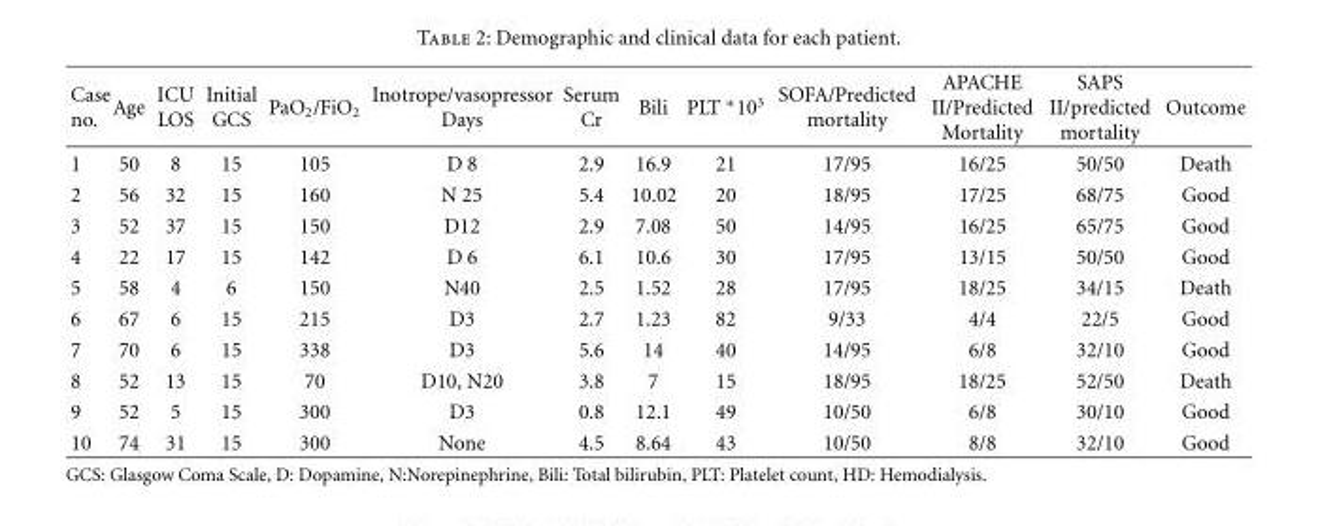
<table><thead><tr><td>Case no.</td><td>Age</td><td>ICU LOS</td><td>Initial GCS</td><td>PaO<sub>2</sub>/FiO<sub>2</sub></td><td>Inotrope/vasopressor Days</td><td>Serum Cr</td><td>Bili</td><td>PLT ∗103</td><td>SOFA/Predicted mortality</td><td>APACHE II/Predicted Mortality</td><td>SAPS II/predicted mortality</td><td>Outcome</td></tr></thead><tbody><tr><td>1</td><td>50</td><td>8</td><td>15</td><td>105</td><td>D 8</td><td>2.9</td><td>16.9</td><td>21</td><td>17/95</td><td>16/25</td><td>50/50</td><td>Death</td></tr><tr><td>2</td><td>56</td><td>32</td><td>15</td><td>160</td><td>N 25</td><td>5.4</td><td>10.02</td><td>20</td><td>18/95</td><td>17/25</td><td>68/75</td><td>Good</td></tr><tr><td>3</td><td>52</td><td>37</td><td>15</td><td>150</td><td>D12</td><td>2.9</td><td>7.08</td><td>50</td><td>14/95</td><td>16/25</td><td>65/75</td><td>Good</td></tr><tr><td>4</td><td>22</td><td>17</td><td>15</td><td>142</td><td>D 6</td><td>6.1</td><td>10.6</td><td>30</td><td>17/95</td><td>13/15</td><td>50/50</td><td>Good</td></tr><tr><td>5</td><td>58</td><td>4</td><td>6</td><td>150</td><td>N40</td><td>2.5</td><td>1.52</td><td>28</td><td>17/95</td><td>18/25</td><td>34/15</td><td>Death</td></tr><tr><td>6</td><td>67</td><td>6</td><td>15</td><td>215</td><td>D3</td><td>2.7</td><td>1.23</td><td>82</td><td>9/33</td><td>4/4</td><td>22/5</td><td>Good</td></tr><tr><td>7</td><td>70</td><td>6</td><td>15</td><td>338</td><td>D3</td><td>5.6</td><td>14</td><td>40</td><td>14/95</td><td>6/8</td><td>32/10</td><td>Good</td></tr><tr><td>8</td><td>52</td><td>13</td><td>15</td><td>70</td><td>D10, N20</td><td>3.8</td><td>7</td><td>15</td><td>18/95</td><td>18/25</td><td>52/50</td><td>Death</td></tr><tr><td>9</td><td>52</td><td>5</td><td>15</td><td>300</td><td>D3</td><td>0.8</td><td>12.1</td><td>49</td><td>10/50</td><td>6/8</td><td>30/10</td><td>Good</td></tr><tr><td>10</td><td>74</td><td>31</td><td>15</td><td>300</td><td>None</td><td>4.5</td><td>8.64</td><td>43</td><td>10/50</td><td>8/8</td><td>32/10</td><td>Good</td></tr></tbody></table>